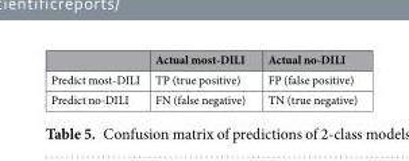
<table><thead><tr><td></td><td>Actual most-DILI</td><td>Actual no-DILI</td></tr></thead><tbody><tr><td>Predict most-DILI</td><td>TP (true positive)</td><td>FP (false positive)</td></tr><tr><td>Predict no-DILI</td><td>FN (false negative)</td><td>TN (true negative)</td></tr></tbody></table>